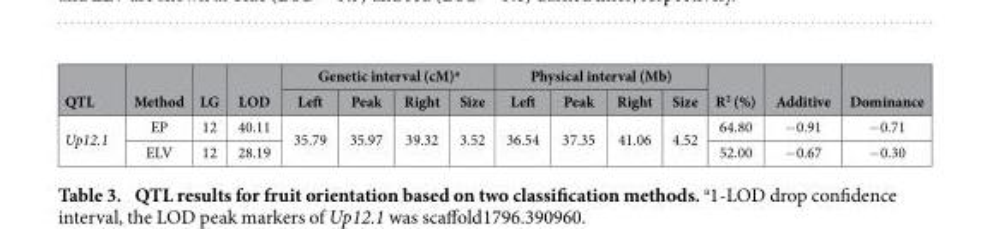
<table><thead><tr><td rowspan="2">QTL</td><td rowspan="2">Method</td><td rowspan="2">LG</td><td rowspan="2">LOD</td><td colspan="4">Genetic interval (cM)<sup>a</sup></td><td colspan="4">Physical interval (Mb)</td><td rowspan="2">R<sup>2</sup> (%)</td><td rowspan="2">Additive</td><td rowspan="2">Dominance</td></tr><tr><td>Left</td><td>Peak</td><td>Right</td><td>Size</td><td>Left</td><td>Peak</td><td>Right</td><td>Size</td></tr></thead><tbody><tr><td rowspan="2">Up12.1</td><td>EP</td><td>12</td><td>40.11</td><td rowspan="2">35.79</td><td rowspan="2">35.97</td><td rowspan="2">39.32</td><td rowspan="2">3.52</td><td rowspan="2">36.54</td><td rowspan="2">37.35</td><td rowspan="2">41.06</td><td rowspan="2">4.52</td><td>64.80</td><td>− 0.91</td><td>− 0.71</td></tr><tr><td>ELV</td><td>12</td><td>28.19</td><td>52.00</td><td>− 0.67</td><td>− 0.30</td></tr></tbody></table>